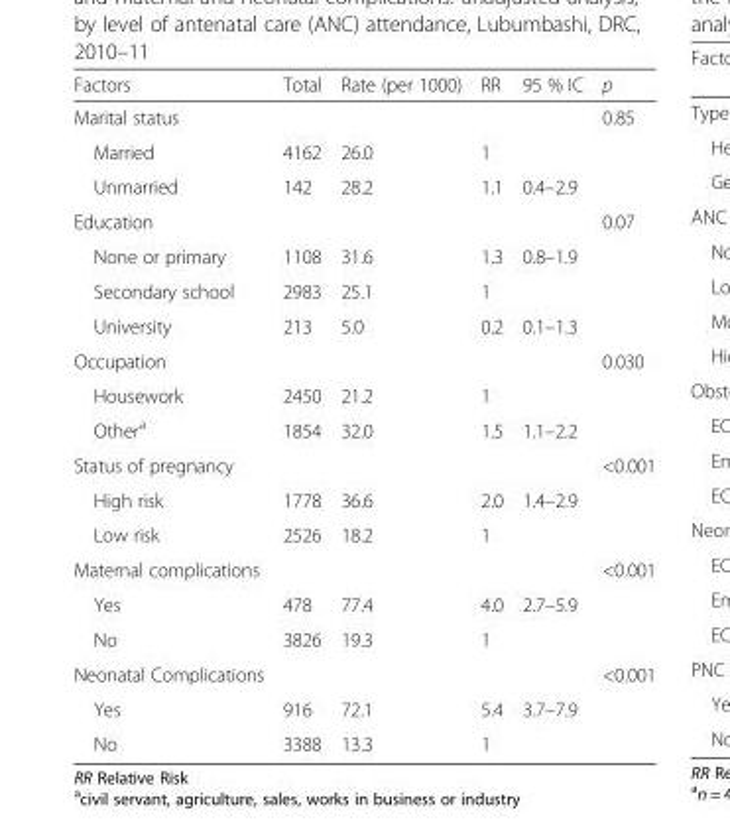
<table><thead><tr><td>Factors</td><td>Total</td><td>Rate (per 1000)</td><td>RR</td><td>95 % IC</td><td>p</td></tr></thead><tbody><tr><td>Marital status</td><td></td><td></td><td></td><td></td><td>0.85</td></tr><tr><td>Married</td><td>4162</td><td>26.0</td><td>1</td><td></td><td></td></tr><tr><td>Unmarried</td><td>142</td><td>28.2</td><td>1.1</td><td>0.4–2.9</td><td></td></tr><tr><td>Education</td><td></td><td></td><td></td><td></td><td>0.07</td></tr><tr><td>None or primary</td><td>1108</td><td>31.6</td><td>1.3</td><td>0.8–1.9</td><td></td></tr><tr><td>Secondary school</td><td>2983</td><td>25.1</td><td>1</td><td></td><td></td></tr><tr><td>University</td><td>213</td><td>5.0</td><td>0.2</td><td>0.1–1.3</td><td></td></tr><tr><td>Occupation</td><td></td><td></td><td></td><td></td><td>0.030</td></tr><tr><td>Housework</td><td>2450</td><td>21.2</td><td>1</td><td></td><td></td></tr><tr><td>Other<sup>a</sup></td><td>1854</td><td>32.0</td><td>1.5</td><td>1.1–2.2</td><td></td></tr><tr><td>Status of pregnancy</td><td></td><td></td><td></td><td></td><td>&lt;0.001</td></tr><tr><td>High risk</td><td>1778</td><td>36.6</td><td>2.0</td><td>1.4–2.9</td><td></td></tr><tr><td>Low risk</td><td>2526</td><td>18.2</td><td>1</td><td></td><td></td></tr><tr><td>Maternal complications</td><td></td><td></td><td></td><td></td><td>&lt;0.001</td></tr><tr><td>Yes</td><td>478</td><td>77.4</td><td>4.0</td><td>2.7–5.9</td><td></td></tr><tr><td>No</td><td>3826</td><td>19.3</td><td>1</td><td></td><td></td></tr><tr><td>Neonatal Complications</td><td></td><td></td><td></td><td></td><td>&lt;0.001</td></tr><tr><td>Yes</td><td>916</td><td>72.1</td><td>5.4</td><td>3.7–7.9</td><td></td></tr><tr><td>No</td><td>3388</td><td>13.3</td><td>1</td><td></td><td></td></tr></tbody></table>